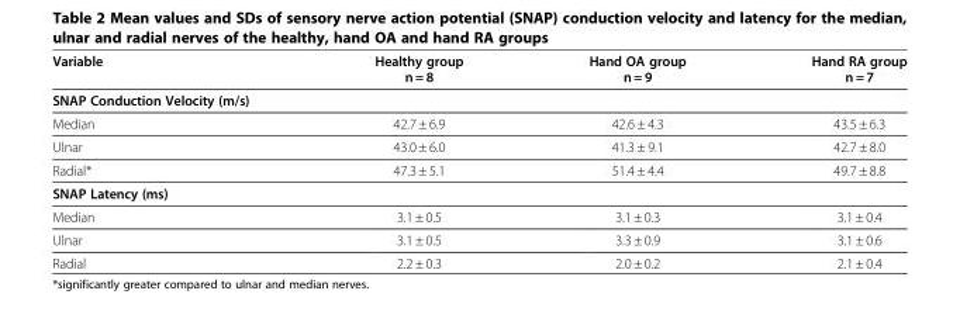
<table><thead><tr><td>Variable</td><td>Healthy group n = 8</td><td>Hand OA group n = 9</td><td>Hand RA group n = 7</td></tr></thead><tbody><tr><td colspan="4">SNAP Conduction Velocity (m/s)</td></tr><tr><td>Median</td><td>42.7 ± 6.9</td><td>42.6 ± 4.3</td><td>43.5 ± 6.3</td></tr><tr><td>Ulnar</td><td>43.0 ± 6.0</td><td>41.3 ± 9.1</td><td>42.7 ± 8.0</td></tr><tr><td>Radial*</td><td>47.3 ± 5.1</td><td>51.4 ± 4.4</td><td>49.7 ± 8.8</td></tr><tr><td colspan="4">SNAP Latency (ms)</td></tr><tr><td>Median</td><td>3.1 ± 0.5</td><td>3.1 ± 0.3</td><td>3.1 ± 0.4</td></tr><tr><td>Ulnar</td><td>3.1 ± 0.5</td><td>3.3 ± 0.9</td><td>3.1 ± 0.6</td></tr><tr><td>Radial</td><td>2.2 ± 0.3</td><td>2.0 ± 0.2</td><td>2.1 ± 0.4</td></tr></tbody></table>